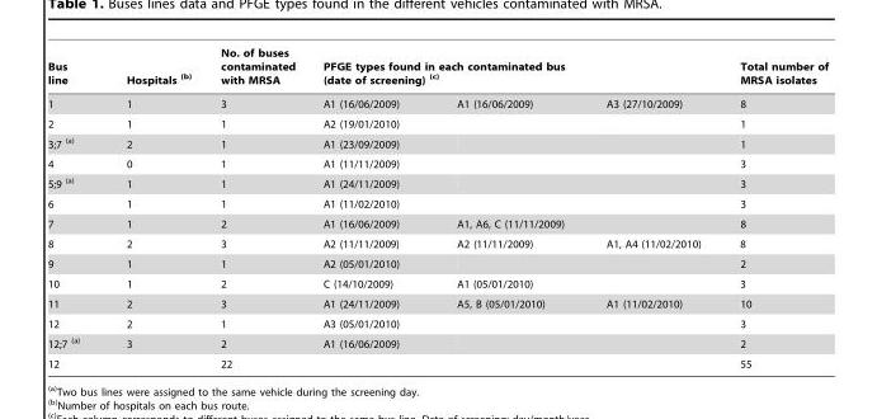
<table><thead><tr><td rowspan="2">Bus line 1</td><td rowspan="2">Hospitals (b) 1</td><td rowspan="2">No. of buses contaminated with MRSA 3</td><td colspan="3">PFGE types found in each contaminated bus (date of screening) (c)</td><td rowspan="2">Total number of MRSA isolates 8</td></tr><tr><td>A1 (16/06/2009)</td><td>A1 (16/06/2009)</td><td>A3 (27/10/2009)</td></tr></thead><tbody><tr><td>2</td><td>1</td><td>1</td><td>A2 (19/01/2010)</td><td></td><td></td><td>1</td></tr><tr><td>3;7 (a)</td><td>2</td><td>1</td><td>A1 (23/09/2009)</td><td></td><td></td><td>1</td></tr><tr><td>4</td><td>0</td><td>1</td><td>A1 (11/11/2009)</td><td></td><td></td><td>3</td></tr><tr><td>5;9 (a)</td><td>1</td><td>1</td><td>A1 (24/11/2009)</td><td></td><td></td><td>3</td></tr><tr><td>6</td><td>1</td><td>1</td><td>A1 (11/02/2010)</td><td></td><td></td><td>3</td></tr><tr><td>7</td><td>1</td><td>2</td><td>A1 (16/06/2009)</td><td>A1, A6, C (11/11/2009)</td><td></td><td>8</td></tr><tr><td>8</td><td>2</td><td>3</td><td>A2 (11/11/2009)</td><td>A2 (11/11/2009)</td><td>A1, A4 (11/02/2010)</td><td>8</td></tr><tr><td>9</td><td>1</td><td>1</td><td>A2 (05/01/2010)</td><td></td><td></td><td>2</td></tr><tr><td>10</td><td>1</td><td>2</td><td>C (14/10/2009)</td><td>A1 (05/01/2010)</td><td></td><td>3</td></tr><tr><td>11</td><td>2</td><td>3</td><td>A1 (24/11/2009)</td><td>A5, B (05/01/2010)</td><td>A1 (11/02/2010)</td><td>10</td></tr><tr><td>12</td><td>2</td><td>1</td><td>A3 (05/01/2010)</td><td></td><td></td><td>3</td></tr><tr><td>12;7 (a)</td><td>3</td><td>2</td><td>A1 (16/06/2009)</td><td></td><td></td><td>2</td></tr><tr><td>12</td><td></td><td>22</td><td></td><td></td><td></td><td>55</td></tr></tbody></table>